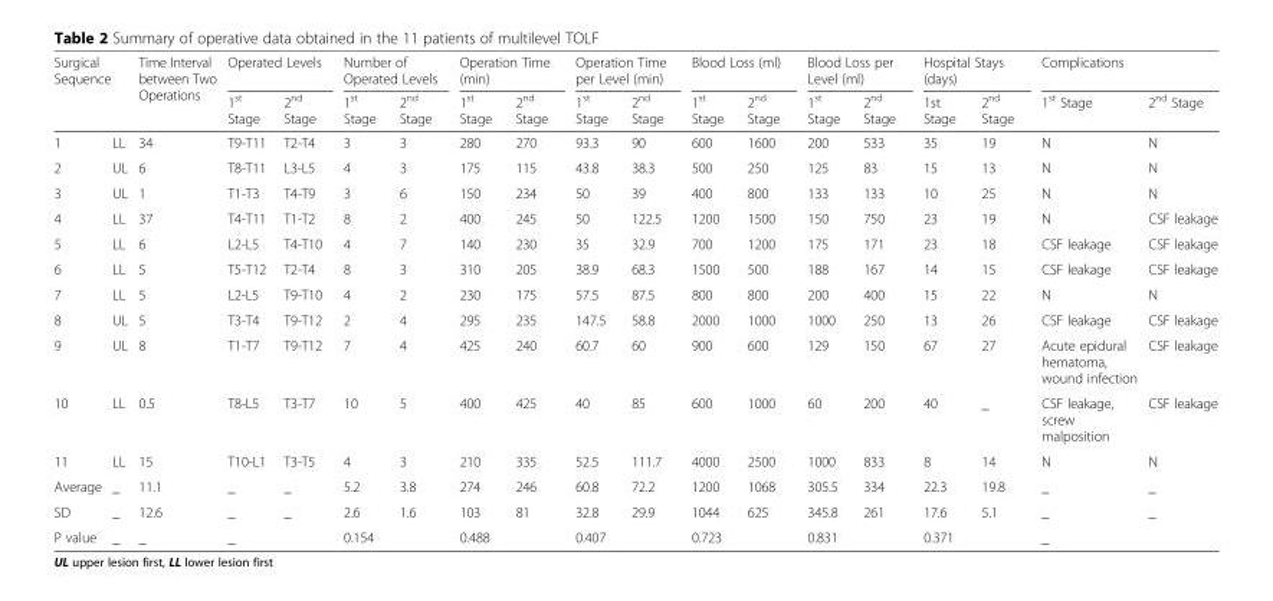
<table><thead><tr><td rowspan="2" colspan="2">Surgical Sequence</td><td rowspan="3">Time Interval between Two Operations 34</td><td colspan="2">Operated Levels</td><td colspan="2">Number of Operated Levels</td><td colspan="2">Operation Time (min)</td><td colspan="2">Operation Time per Level (min)</td><td colspan="2">Blood Loss (ml)</td><td colspan="2">Blood Loss per Level (ml)</td><td colspan="2">Hospital Stays (days)</td><td colspan="2">Complications</td></tr><tr><td rowspan="2">1st Stage T9-T11</td><td rowspan="2">2<sup>nd</sup> Stage T2-T4</td><td rowspan="2">1st Stage 3</td><td rowspan="2">2<sup>nd</sup> Stage 3</td><td rowspan="2">1st Stage 280</td><td rowspan="2">2<sup>nd</sup> Stage 270</td><td rowspan="2">1st Stage 93.3</td><td rowspan="2">2<sup>nd</sup> Stage 90</td><td rowspan="2">1st Stage 600</td><td rowspan="2">2<sup>nd</sup> Stage 1600</td><td rowspan="2">1st Stage 200</td><td rowspan="2">2<sup>nd</sup> Stage 533</td><td rowspan="2">1st Stage 35</td><td rowspan="2">2<sup>nd</sup> Stage 19</td><td rowspan="2">1st Stage N</td><td rowspan="2">2<sup>nd</sup> Stage N</td></tr><tr><td>1</td><td>LL</td></tr></thead><tbody><tr><td>2</td><td>UL</td><td>6</td><td>T8-T11</td><td>L3-L5</td><td>4</td><td>3</td><td>175</td><td>115</td><td>43.8</td><td>38.3</td><td>500</td><td>250</td><td>125</td><td>83</td><td>15</td><td>13</td><td>N</td><td>N</td></tr><tr><td>3</td><td>UL</td><td>1</td><td>T1-T3</td><td>T4-T9</td><td>3</td><td>6</td><td>150</td><td>234</td><td>50</td><td>39</td><td>400</td><td>800</td><td>133</td><td>133</td><td>10</td><td>25</td><td>N</td><td>N</td></tr><tr><td>4</td><td>LL</td><td>37</td><td>T4-T11</td><td>T1-T2</td><td>8</td><td>2</td><td>400</td><td>245</td><td>50</td><td>122.5</td><td>1200</td><td>1500</td><td>150</td><td>750</td><td>23</td><td>19</td><td>N</td><td>CSF leakage</td></tr><tr><td>5</td><td>LL</td><td>6</td><td>L2-L5</td><td>T4-T10</td><td>4</td><td>7</td><td>140</td><td>230</td><td>35</td><td>32.9</td><td>700</td><td>1200</td><td>175</td><td>171</td><td>23</td><td>18</td><td>CSF leakage</td><td>CSF leakage</td></tr><tr><td>6</td><td>LL</td><td>5</td><td>T5-T12</td><td>T2-T4</td><td>8</td><td>3</td><td>310</td><td>205</td><td>38.9</td><td>68.3</td><td>1500</td><td>500</td><td>188</td><td>167</td><td>14</td><td>15</td><td>CSF leakage</td><td>CSF leakage</td></tr><tr><td>7</td><td>LL</td><td>5</td><td>L2-L5</td><td>T9-T10</td><td>4</td><td>2</td><td>230</td><td>175</td><td>57.5</td><td>87.5</td><td>800</td><td>800</td><td>200</td><td>400</td><td>15</td><td>22</td><td>N</td><td>N</td></tr><tr><td>8</td><td>UL</td><td>5</td><td>T3-T4</td><td>T9-T12</td><td>2</td><td>4</td><td>295</td><td>235</td><td>147.5</td><td>58.8</td><td>2000</td><td>1000</td><td>1000</td><td>250</td><td>13</td><td>26</td><td>CSF leakage</td><td>CSF leakage</td></tr><tr><td>9</td><td>UL</td><td>8</td><td>T1-T7</td><td>T9-T12</td><td>7</td><td>4</td><td>425</td><td>240</td><td>60.7</td><td>60</td><td>900</td><td>600</td><td>129</td><td>150</td><td>67</td><td>27</td><td>Acute epidural hematoma, wound infection</td><td>CSF leakage</td></tr><tr><td>10</td><td>LL</td><td>0.5</td><td>T8-L5</td><td>T3-T7</td><td>10</td><td>5</td><td>400</td><td>425</td><td>40</td><td>85</td><td>600</td><td>1000</td><td>60</td><td>200</td><td>40</td><td>_</td><td>CSF leakage, screw malposition</td><td>CSF leakage</td></tr><tr><td>11</td><td>LL</td><td>15</td><td>T10-L1</td><td>T3-T5</td><td>4</td><td>3</td><td>210</td><td>335</td><td>52.5</td><td>111.7</td><td>4000</td><td>2500</td><td>1000</td><td>833</td><td>8</td><td>14</td><td>N</td><td>N</td></tr><tr><td>Average</td><td>_</td><td>11.1</td><td>_</td><td>_</td><td>5.2</td><td>3.8</td><td>274</td><td>246</td><td>60.8</td><td>72.2</td><td>1200</td><td>1068</td><td>305.5</td><td>334</td><td>22.3</td><td>19.8</td><td>_</td><td>_</td></tr><tr><td>SD</td><td>_</td><td>12.6</td><td>_</td><td>_</td><td>2.6</td><td>1.6</td><td>103</td><td>81</td><td>32.8</td><td>29.9</td><td>1044</td><td>625</td><td>345.8</td><td>261</td><td>17.6</td><td>5.1</td><td>_</td><td>_</td></tr><tr><td>P value</td><td>_</td><td>_</td><td colspan="2">_</td><td colspan="2">0.154</td><td colspan="2">0.488</td><td colspan="2">0.407</td><td colspan="2">0.723</td><td colspan="2">0.831</td><td colspan="2">0.371</td><td colspan="2">_</td></tr></tbody></table>